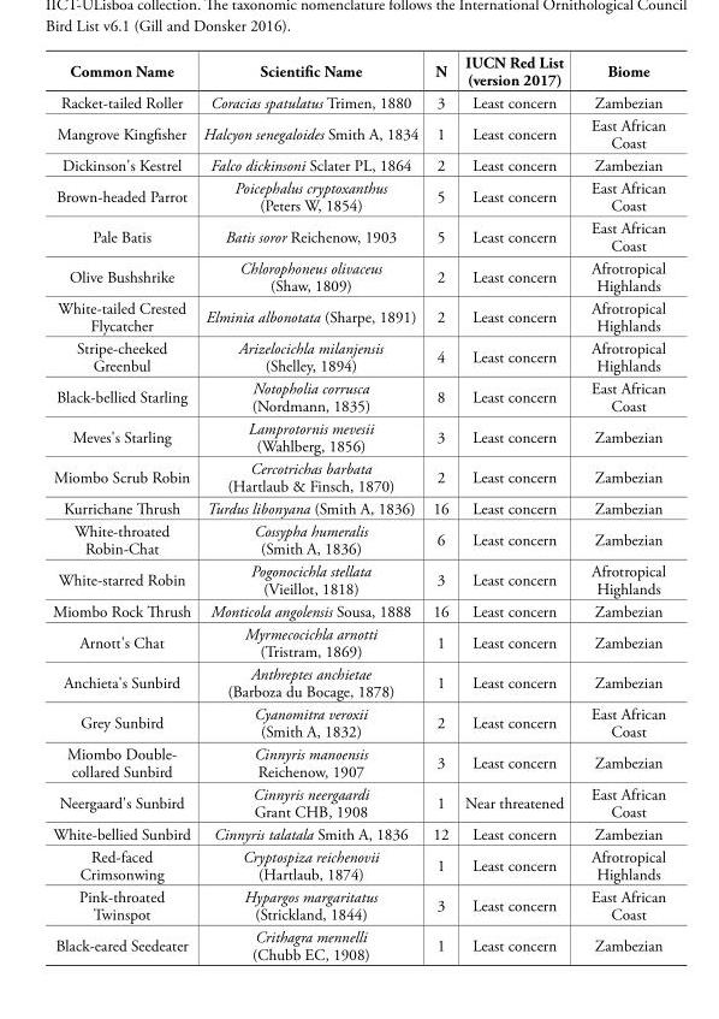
<table><thead><tr><td>Common Name</td><td>Scientific Name</td><td>N</td><td>IUCN Red List (version 2017)</td><td>Biome</td></tr></thead><tbody><tr><td>Racket-tailed Roller</td><td>Coracias spatulatus Trimen, 1880</td><td>3</td><td>Least concern</td><td>Zambezian</td></tr><tr><td>Mangrove Kingfisher</td><td>Halcyon senegaloides Smith A, 1834</td><td>1</td><td>Least concern</td><td>East African Coast</td></tr><tr><td>Dickinson&#x27;s Kestrel</td><td>Falco dickinsoni Sclater PL, 1864</td><td>2</td><td>Least concern</td><td>Zambezian</td></tr><tr><td>Brown-headed Parrot</td><td>Poicephalus cryptoxanthus (Peters W, 1854)</td><td>5</td><td>Least concern</td><td>East African Coast</td></tr><tr><td>Pale Batis</td><td>Batis soror Reichenow, 1903</td><td>5</td><td>Least concern</td><td>East African Coast</td></tr><tr><td>Olive Bushshrike</td><td>Chlorophoneus olivaceus (Shaw, 1809)</td><td>2</td><td>Least concern</td><td>Afrotropical Highlands</td></tr><tr><td>White-tailed Crested Flycatcher</td><td>Elminia albonotata (Sharpe, 1891)</td><td>2</td><td>Least concern</td><td>Afrotropical Highlands</td></tr><tr><td>Stripe-cheeked Greenbul</td><td>Arizelocichla milanjensis (Shelley, 1894)</td><td>4</td><td>Least concern</td><td>Afrotropical Highlands</td></tr><tr><td>Black-bellied Starling</td><td>Notopholia corrusca (Nordmann, 1835)</td><td>8</td><td>Least concern</td><td>East African Coast</td></tr><tr><td>Meves&#x27;s Starling</td><td>Lamprotornis mevesii (Wahlberg, 1856)</td><td>3</td><td>Least concern</td><td>Zambezian</td></tr><tr><td>Miombo Scrub Robin</td><td>Cercotrichas barbata (Hartlaub &amp; Finsch, 1870)</td><td>2</td><td>Least concern</td><td>Zambezian</td></tr><tr><td>Kurrichane Thrush</td><td>Turdus libonyana (Smith A, 1836)</td><td>16</td><td>Least concern</td><td>Zambezian</td></tr><tr><td>White-throated Robin-Chat</td><td>Cossypha humeralis (Smith A, 1836)</td><td>6</td><td>Least concern</td><td>Zambezian</td></tr><tr><td>White-starred Robin</td><td>Pogonocichla stellata (Vieillot, 1818)</td><td>3</td><td>Least concern</td><td>Afrotropical Highlands</td></tr><tr><td>Miombo Rock Thrush</td><td>Monticola angolensis Sousa, 1888</td><td>16</td><td>Least concern</td><td>Zambezian</td></tr><tr><td>Arnott&#x27;s Chat</td><td>Myrmecocichla arnotti (Tristram, 1869)</td><td>1</td><td>Least concern</td><td>Zambezian</td></tr><tr><td>Anchieta&#x27;s Sunbird</td><td>Anthreptes anchietae (Barboza du Bocage, 1878)</td><td>1</td><td>Least concern</td><td>Zambezian</td></tr><tr><td>Grey Sunbird</td><td>Cyanomitra veroxii (Smith A, 1832)</td><td>2</td><td>Least concern</td><td>East African Coast</td></tr><tr><td>Miombo Double- collared Sunbird</td><td>Cinnyris manoensis Reichenow, 1907</td><td>3</td><td>Least concern</td><td>Zambezian</td></tr><tr><td>Neergaard&#x27;s Sunbird</td><td>Cinnyris neergaardi Grant CHB, 1908</td><td>1</td><td>Near threatened</td><td>East African Coast</td></tr><tr><td>White-bellied Sunbird</td><td>Cinnyris talatala Smith A, 1836</td><td>12</td><td>Least concern</td><td>Zambezian</td></tr><tr><td>Red-faced Crimsonwing</td><td>Cryptospiza reichenovii (Hartlaub, 1874)</td><td>1</td><td>Least concern</td><td>Afrotropical Highlands</td></tr><tr><td>Pink-throated Twinspot</td><td>Hypargos margaritatus (Strickland, 1844)</td><td>3</td><td>Least concern</td><td>East African Coast</td></tr><tr><td>Black-eared Seedeater</td><td>Crithagra mennelli (Chubb EC, 1908)</td><td>1</td><td>Least concern</td><td>Zambezian</td></tr></tbody></table>